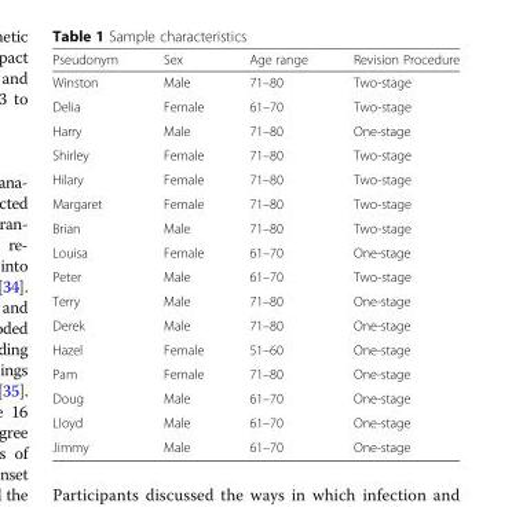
<table><thead><tr><td>Pseudonym</td><td>Sex</td><td>Age range</td><td>Revision Procedure</td></tr></thead><tbody><tr><td>Winston</td><td>Male</td><td>71–80</td><td>Two-stage</td></tr><tr><td>Delia</td><td>Female</td><td>61–70</td><td>Two-stage</td></tr><tr><td>Harry</td><td>Male</td><td>71–80</td><td>One-stage</td></tr><tr><td>Shirley</td><td>Female</td><td>71–80</td><td>Two-stage</td></tr><tr><td>Hilary</td><td>Female</td><td>71–80</td><td>Two-stage</td></tr><tr><td>Margaret</td><td>Female</td><td>71–80</td><td>Two-stage</td></tr><tr><td>Brian</td><td>Male</td><td>71–80</td><td>Two-stage</td></tr><tr><td>Louisa</td><td>Female</td><td>61–70</td><td>One-stage</td></tr><tr><td>Peter</td><td>Male</td><td>61–70</td><td>Two-stage</td></tr><tr><td>Terry</td><td>Male</td><td>71–80</td><td>One-stage</td></tr><tr><td>Derek</td><td>Male</td><td>71–80</td><td>One-stage</td></tr><tr><td>Hazel</td><td>Female</td><td>51–60</td><td>One-stage</td></tr><tr><td>Pam</td><td>Female</td><td>71–80</td><td>One-stage</td></tr><tr><td>Doug</td><td>Male</td><td>61–70</td><td>One-stage</td></tr><tr><td>Lloyd</td><td>Male</td><td>61–70</td><td>One-stage</td></tr><tr><td>Jimmy</td><td>Male</td><td>61–70</td><td>One-stage</td></tr></tbody></table>